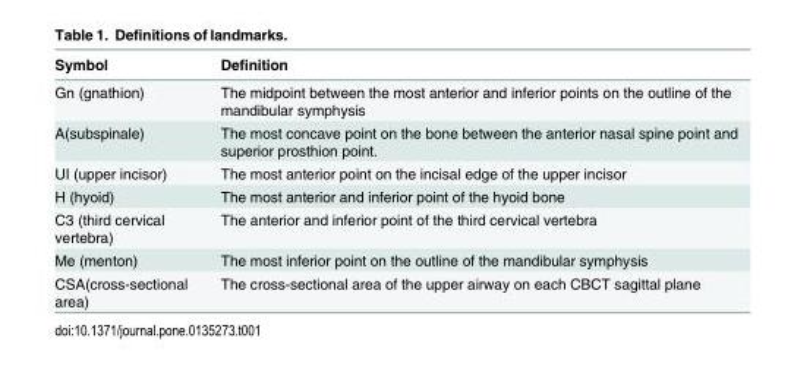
<table><thead><tr><td>Symbol</td><td>Definition</td></tr></thead><tbody><tr><td>Gn (gnathion)</td><td>The midpoint between the most anterior and inferior points on the outline of the mandibular symphysis</td></tr><tr><td>A(subspinale)</td><td>The most concave point on the bone between the anterior nasal spine point and superior prosthion point.</td></tr><tr><td>UI (upper incisor)</td><td>The most anterior point on the incisal edge of the upper incisor</td></tr><tr><td>H (hyoid)</td><td>The most anterior and inferior point of the hyoid bone</td></tr><tr><td>C3 (third cervical vertebra)</td><td>The anterior and inferior point of the third cervical vertebra</td></tr><tr><td>Me (menton)</td><td>The most inferior point on the outline of the mandibular symphysis</td></tr><tr><td>CSA(cross-sectional area)</td><td>The cross-sectional area of the upper airway on each CBCT sagittal plane</td></tr></tbody></table>